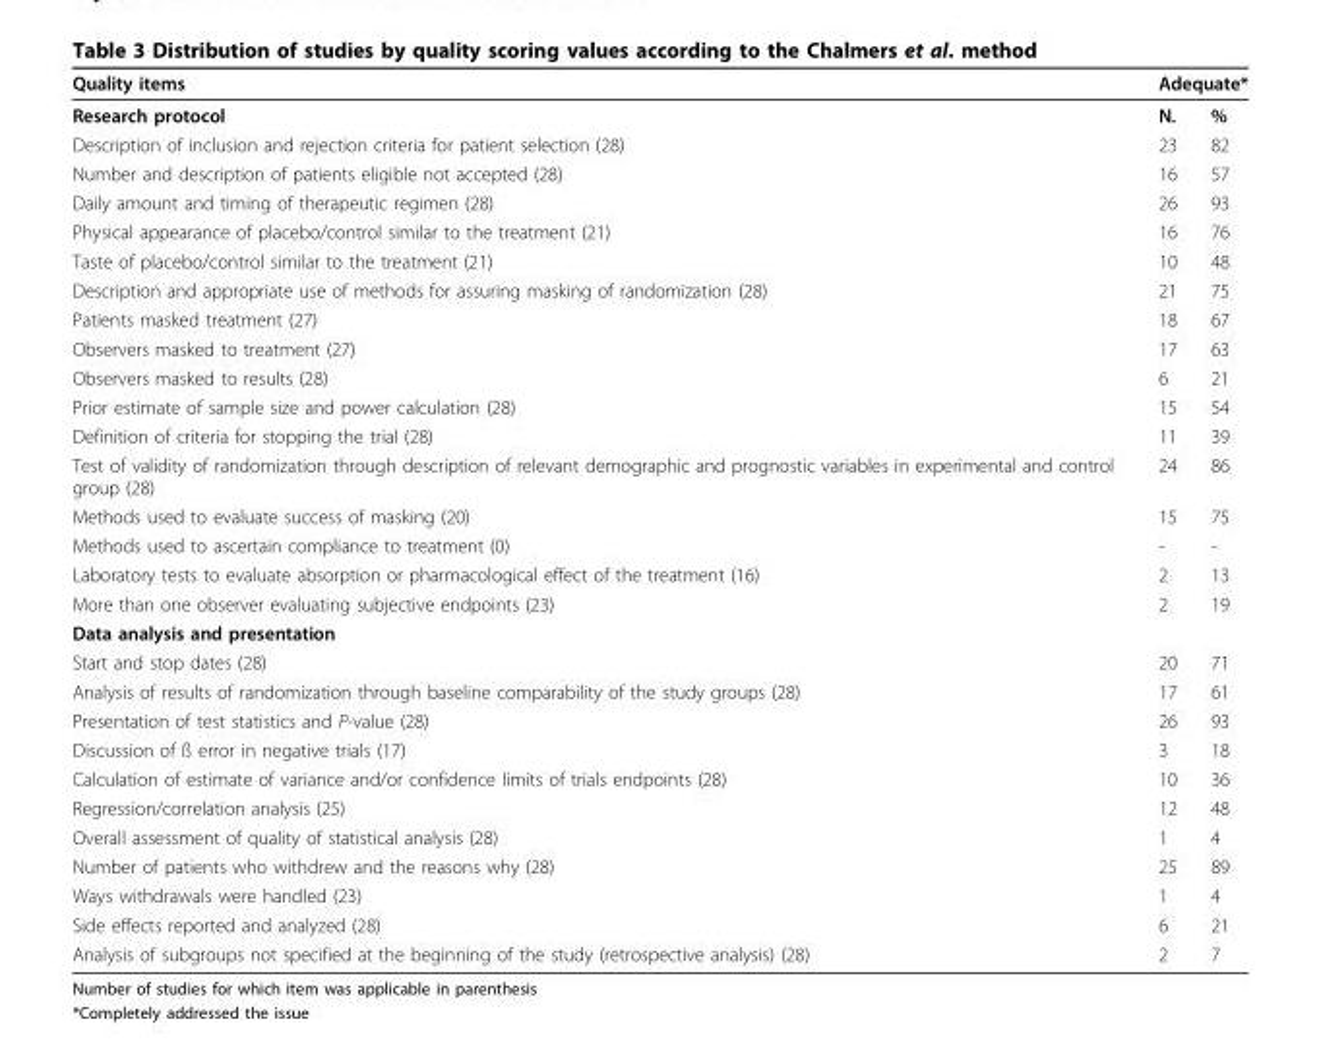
<table><thead><tr><td rowspan="2">Quality items Research protocol</td><td colspan="2">Adequate*</td></tr><tr><td>N.</td><td>%</td></tr></thead><tbody><tr><td>Description of inclusion and rejection criteria for patient selection (28)</td><td>23</td><td>82</td></tr><tr><td>Number and description of patients eligible not accepted (28)</td><td>16</td><td>57</td></tr><tr><td>Daily amount and timing of therapeutic regimen (28)</td><td>26</td><td>93</td></tr><tr><td>Physical appearance of placebo/control similar to the treatment (21)</td><td>16</td><td>76</td></tr><tr><td>Taste of placebo/control similar to the treatment (21)</td><td>10</td><td>48</td></tr><tr><td>Description and appropriate use of methods for assuring masking of randomization (28)</td><td>21</td><td>75</td></tr><tr><td>Patients masked treatment (27)</td><td>18</td><td>67</td></tr><tr><td>Observers masked to treatment (27)</td><td>17</td><td>63</td></tr><tr><td>Observers masked to results (28)</td><td>6</td><td>21</td></tr><tr><td>Prior estimate of sample size and power calculation (28)</td><td>15</td><td>54</td></tr><tr><td>Definition of criteria for stopping the trial (28)</td><td>11</td><td>39</td></tr><tr><td>Test of validity of randomization through description of relevant demographic and prognostic variables in experimental and control group (28)</td><td>24</td><td>86</td></tr><tr><td>Methods used to evaluate success of masking (20)</td><td>15</td><td>75</td></tr><tr><td>Methods used to ascertain compliance to treatment (0)</td><td>-</td><td>-</td></tr><tr><td>Laboratory tests to evaluate absorption or pharmacological effect of the treatment (16)</td><td>2</td><td>13</td></tr><tr><td>More than one observer evaluating subjective endpoints (23)</td><td>2</td><td>19</td></tr><tr><td colspan="3">Data analysis and presentation</td></tr><tr><td>Start and stop dates (28)</td><td>20</td><td>71</td></tr><tr><td>Analysis of results of randomization through baseline comparability of the study groups (28)</td><td>17</td><td>61</td></tr><tr><td>Presentation of test statistics and P-value (28)</td><td>26</td><td>93</td></tr><tr><td>Discussion of ß error in negative trials (17)</td><td>3</td><td>18</td></tr><tr><td>Calculation of estimate of variance and/or confidence limits of trials endpoints (28)</td><td>10</td><td>36</td></tr><tr><td>Regression/correlation analysis (25)</td><td>12</td><td>48</td></tr><tr><td>Overall assessment of quality of statistical analysis (28)</td><td>1</td><td>4</td></tr><tr><td>Number of patients who withdrew and the reasons why (28)</td><td>25</td><td>89</td></tr><tr><td>Ways withdrawals were handled (23)</td><td>1</td><td>4</td></tr><tr><td>Side effects reported and analyzed (28)</td><td>6</td><td>21</td></tr><tr><td>Analysis of subgroups not specified at the beginning of the study (retrospective analysis) (28)</td><td>2</td><td>7</td></tr></tbody></table>